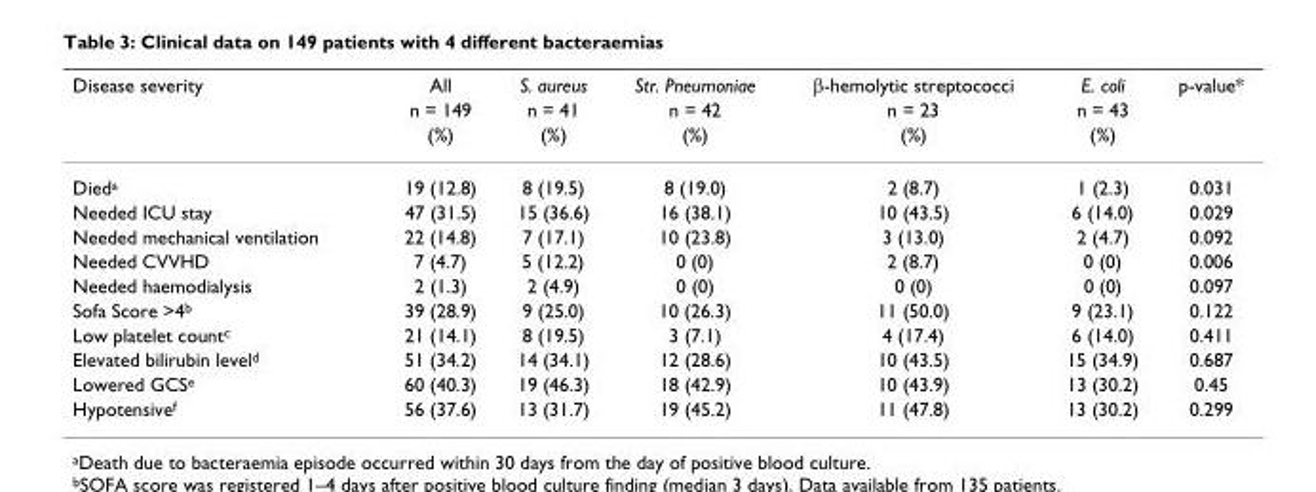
<table><thead><tr><td rowspan="3">Disease severity</td><td rowspan="3">All n = 149 (%)</td><td rowspan="3">S. aureus n = 41 (%)</td><td rowspan="3">Str. Pneumoniae n = 42 (%)</td><td rowspan="3">β-hemolytic streptococci n = 23 (%)</td><td rowspan="3">E. coli n = 43 (%)</td><td rowspan="3">p-value*</td></tr><tr></tr><tr></tr></thead><tbody><tr><td>Died<sup>a</sup></td><td>19 (12.8)</td><td>8 (19.5)</td><td>8 (19.0)</td><td>2 (8.7)</td><td>1 (2.3)</td><td>0.031</td></tr><tr><td>Needed ICU stay</td><td>47 (31.5)</td><td>15 (36.6)</td><td>16 (38.1)</td><td>10 (43.5)</td><td>6 (14.0)</td><td>0.029</td></tr><tr><td>Needed mechanical ventilation</td><td>22 (14.8)</td><td>7 (17.1)</td><td>10 (23.8)</td><td>3 (13.0)</td><td>2 (4.7)</td><td>0.092</td></tr><tr><td>Needed CVVHD</td><td>7 (4.7)</td><td>5 (12.2)</td><td>0 (0)</td><td>2 (8.7)</td><td>0 (0)</td><td>0.006</td></tr><tr><td>Needed haemodialysis</td><td>2 (1.3)</td><td>2 (4.9)</td><td>0 (0)</td><td>0 (0)</td><td>0 (0)</td><td>0.097</td></tr><tr><td>Sofa Score &gt;4<sup>b</sup></td><td>39 (28.9)</td><td>9 (25.0)</td><td>10 (26.3)</td><td>11 (50.0)</td><td>9 (23.1)</td><td>0.122</td></tr><tr><td>Low platelet count<sup>c</sup></td><td>21 (14.1)</td><td>8 (19.5)</td><td>3 (7.1)</td><td>4 (17.4)</td><td>6 (14.0)</td><td>0.411</td></tr><tr><td>Elevated bilirubin level<sup>d</sup></td><td>51 (34.2)</td><td>14 (34.1)</td><td>12 (28.6)</td><td>10 (43.5)</td><td>15 (34.9)</td><td>0.687</td></tr><tr><td>Lowered GCS<sup>e</sup></td><td>60 (40.3)</td><td>19 (46.3)</td><td>18 (42.9)</td><td>10 (43.9)</td><td>13 (30.2)</td><td>0.45</td></tr><tr><td>Hypotensive<sup>f</sup></td><td>56 (37.6)</td><td>13 (31.7)</td><td>19 (45.2)</td><td>11 (47.8)</td><td>13 (30.2)</td><td>0.299</td></tr></tbody></table>